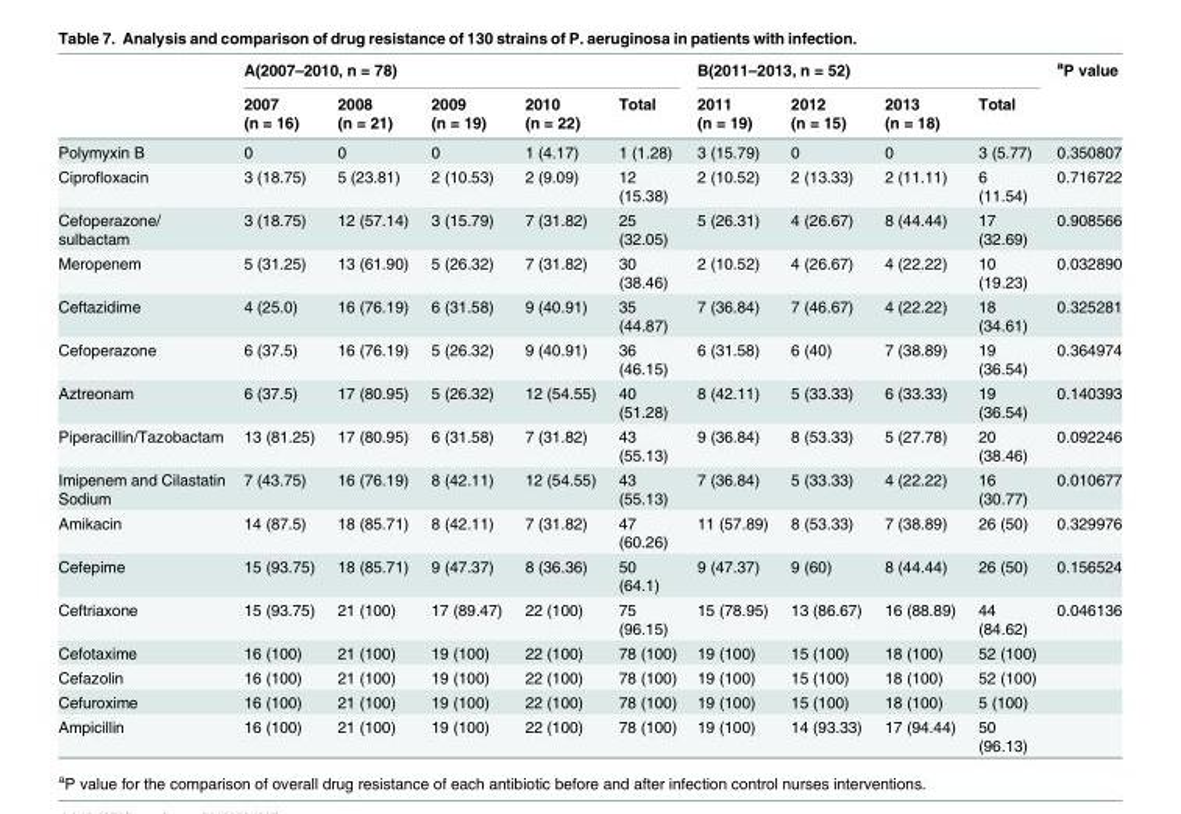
<table><thead><tr><td rowspan="2"></td><td colspan="5">A(2007–2010, n = 78)</td><td colspan="4">B(2011–2013, n = 52)</td><td rowspan="2"><sup>a</sup>P value</td></tr><tr><td>2007 (n = 16)</td><td>2008 (n = 21)</td><td>2009 (n = 19)</td><td>2010 (n = 22)</td><td>Total</td><td>2011 (n = 19)</td><td>2012 (n = 15)</td><td>2013 (n = 18)</td><td>Total</td></tr></thead><tbody><tr><td>Polymyxin B</td><td>0</td><td>0</td><td>0</td><td>1 (4.17)</td><td>1 (1.28)</td><td>3 (15.79)</td><td>0</td><td>0</td><td>3 (5.77)</td><td>0.350807</td></tr><tr><td>Ciprofloxacin</td><td>3 (18.75)</td><td>5 (23.81)</td><td>2 (10.53)</td><td>2 (9.09)</td><td>12 (15.38)</td><td>2 (10.52)</td><td>2 (13.33)</td><td>2 (11.11)</td><td>6 (11.54)</td><td>0.716722</td></tr><tr><td>Cefoperazone/ sulbactam</td><td>3 (18.75)</td><td>12 (57.14)</td><td>3 (15.79)</td><td>7 (31.82)</td><td>25 (32.05)</td><td>5 (26.31)</td><td>4 (26.67)</td><td>8 (44.44)</td><td>17 (32.69)</td><td>0.908566</td></tr><tr><td>Meropenem</td><td>5 (31.25)</td><td>13 (61.90)</td><td>5 (26.32)</td><td>7 (31.82)</td><td>30 (38.46)</td><td>2 (10.52)</td><td>4 (26.67)</td><td>4 (22.22)</td><td>10 (19.23)</td><td>0.032890</td></tr><tr><td>Ceftazidime</td><td>4 (25.0)</td><td>16 (76.19)</td><td>6 (31.58)</td><td>9 (40.91)</td><td>35 (44.87)</td><td>7 (36.84)</td><td>7 (46.67)</td><td>4 (22.22)</td><td>18 (34.61)</td><td>0.325281</td></tr><tr><td>Cefoperazone</td><td>6 (37.5)</td><td>16 (76.19)</td><td>5 (26.32)</td><td>9 (40.91)</td><td>36 (46.15)</td><td>6 (31.58)</td><td>6 (40)</td><td>7 (38.89)</td><td>19 (36.54)</td><td>0.364974</td></tr><tr><td>Aztreonam</td><td>6 (37.5)</td><td>17 (80.95)</td><td>5 (26.32)</td><td>12 (54.55)</td><td>40 (51.28)</td><td>8 (42.11)</td><td>5 (33.33)</td><td>6 (33.33)</td><td>19 (36.54)</td><td>0.140393</td></tr><tr><td>Piperacillin/Tazobactam</td><td>13 (81.25)</td><td>17 (80.95)</td><td>6 (31.58)</td><td>7 (31.82)</td><td>43 (55.13)</td><td>9 (36.84)</td><td>8 (53.33)</td><td>5 (27.78)</td><td>20 (38.46)</td><td>0.092246</td></tr><tr><td>Imipenem and Cilastatin Sodium</td><td>7 (43.75)</td><td>16 (76.19)</td><td>8 (42.11)</td><td>12 (54.55)</td><td>43 (55.13)</td><td>7 (36.84)</td><td>5 (33.33)</td><td>4 (22.22)</td><td>16 (30.77)</td><td>0.010677</td></tr><tr><td>Amikacin</td><td>14 (87.5)</td><td>18 (85.71)</td><td>8 (42.11)</td><td>7 (31.82)</td><td>47 (60.26)</td><td>11 (57.89)</td><td>8 (53.33)</td><td>7 (38.89)</td><td>26 (50)</td><td>0.329976</td></tr><tr><td>Cefepime</td><td>15 (93.75)</td><td>18 (85.71)</td><td>9 (47.37)</td><td>8 (36.36)</td><td>50 (64.1)</td><td>9 (47.37)</td><td>9 (60)</td><td>8 (44.44)</td><td>26 (50)</td><td>0.156524</td></tr><tr><td>Ceftriaxone</td><td>15 (93.75)</td><td>21 (100)</td><td>17 (89.47)</td><td>22 (100)</td><td>75 (96.15)</td><td>15 (78.95)</td><td>13 (86.67)</td><td>16 (88.89)</td><td>44 (84.62)</td><td>0.046136</td></tr><tr><td>Cefotaxime</td><td>16 (100)</td><td>21 (100)</td><td>19 (100)</td><td>22 (100)</td><td>78 (100)</td><td>19 (100)</td><td>15 (100)</td><td>18 (100)</td><td>52 (100)</td><td></td></tr><tr><td>Cefazolin</td><td>16 (100)</td><td>21 (100)</td><td>19 (100)</td><td>22 (100)</td><td>78 (100)</td><td>19 (100)</td><td>15 (100)</td><td>18 (100)</td><td>52 (100)</td><td></td></tr><tr><td>Cefuroxime</td><td>16 (100)</td><td>21 (100)</td><td>19 (100)</td><td>22 (100)</td><td>78 (100)</td><td>19 (100)</td><td>15 (100)</td><td>18 (100)</td><td>5 (100)</td><td></td></tr><tr><td>Ampicillin</td><td>16 (100)</td><td>21 (100)</td><td>19 (100)</td><td>22 (100)</td><td>78 (100)</td><td>19 (100)</td><td>14 (93.33)</td><td>17 (94.44)</td><td>50 (96.13)</td><td></td></tr></tbody></table>